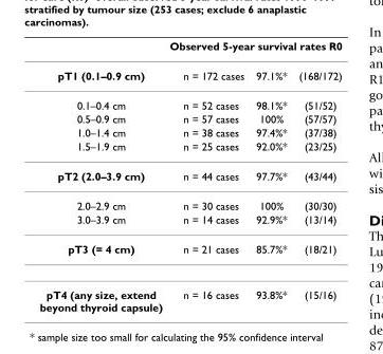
<table><thead><tr><td colspan="4">Observed 5-year survival rates R0</td></tr><tr><td>pT1 (0.1–0.9 cm)</td><td>n = 172 cases</td><td>97.1%*</td><td>(168/172)</td></tr></thead><tbody><tr><td>0.1–0.4 cm</td><td>n = 52 cases</td><td>98.1%*</td><td>(51/52)</td></tr><tr><td>0.5–0.9 cm</td><td>n = 57 cases</td><td>100%</td><td>(57/57)</td></tr><tr><td>1.0–1.4 cm</td><td>n = 38 cases</td><td>97.4%*</td><td>(37/38)</td></tr><tr><td>1.5–1.9 cm</td><td>n = 25 cases</td><td>92.0%*</td><td>(23/25)</td></tr><tr><td>pT2 (2.0–3.9 cm)</td><td>n = 44 cases</td><td>97.7%*</td><td>(43/44)</td></tr><tr><td>2.0–2.9 cm</td><td>n = 30 cases</td><td>100%</td><td>(30/30)</td></tr><tr><td>3.0–3.9 cm</td><td>n = 14 cases</td><td>92.9%*</td><td>(13/14)</td></tr><tr><td>pT3 (= 4 cm)</td><td>n = 21 cases</td><td>85.7%*</td><td>(18/21)</td></tr><tr><td>pT4 (any size, extend beyond thyroid capsule)</td><td>n = 16 cases</td><td>93.8%*</td><td>(15/16)</td></tr></tbody></table>